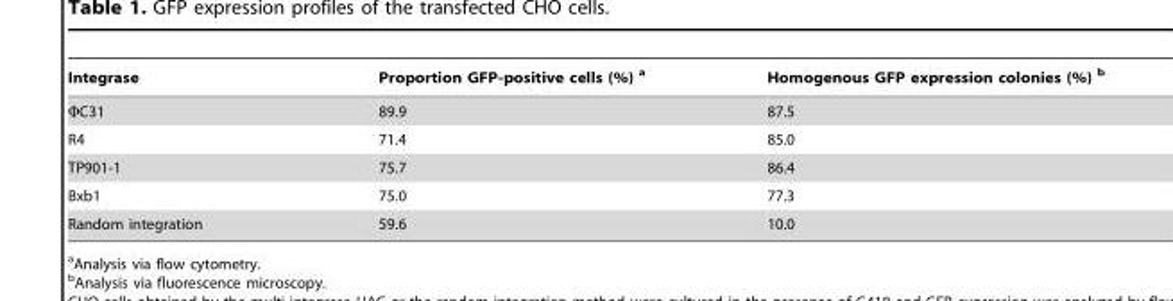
<table><thead><tr><td>Integrase</td><td>Proportion GFP-positive cells (%) a</td><td>Homogenous GFP expression colonies (%) b</td></tr></thead><tbody><tr><td>ΦC31</td><td>89.9</td><td>87.5</td></tr><tr><td>R4</td><td>71.4</td><td>85.0</td></tr><tr><td>TP901-1</td><td>75.7</td><td>86.4</td></tr><tr><td>Bxb1</td><td>75.0</td><td>77.3</td></tr><tr><td>Random integration</td><td>59.6</td><td>10.0</td></tr></tbody></table>